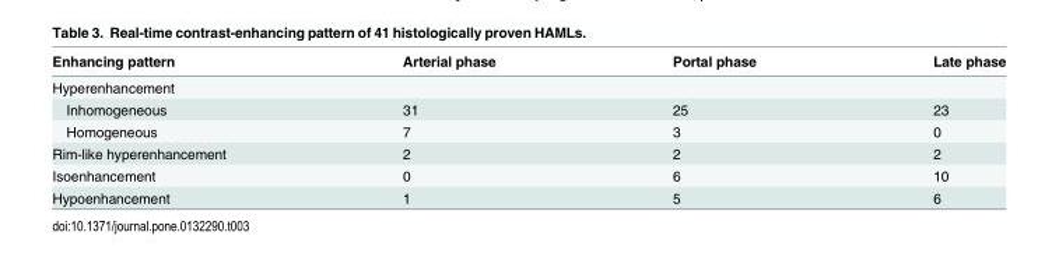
<table><thead><tr><td>Enhancing pattern</td><td>Arterial phase</td><td>Portal phase</td><td>Late phase</td></tr></thead><tbody><tr><td colspan="4">Hyperenhancement</td></tr><tr><td>Inhomogeneous</td><td>31</td><td>25</td><td>23</td></tr><tr><td>Homogeneous</td><td>7</td><td>3</td><td>0</td></tr><tr><td>Rim-like hyperenhancement</td><td>2</td><td>2</td><td>2</td></tr><tr><td>Isoenhancement</td><td>0</td><td>6</td><td>10</td></tr><tr><td>Hypoenhancement</td><td>1</td><td>5</td><td>6</td></tr></tbody></table>